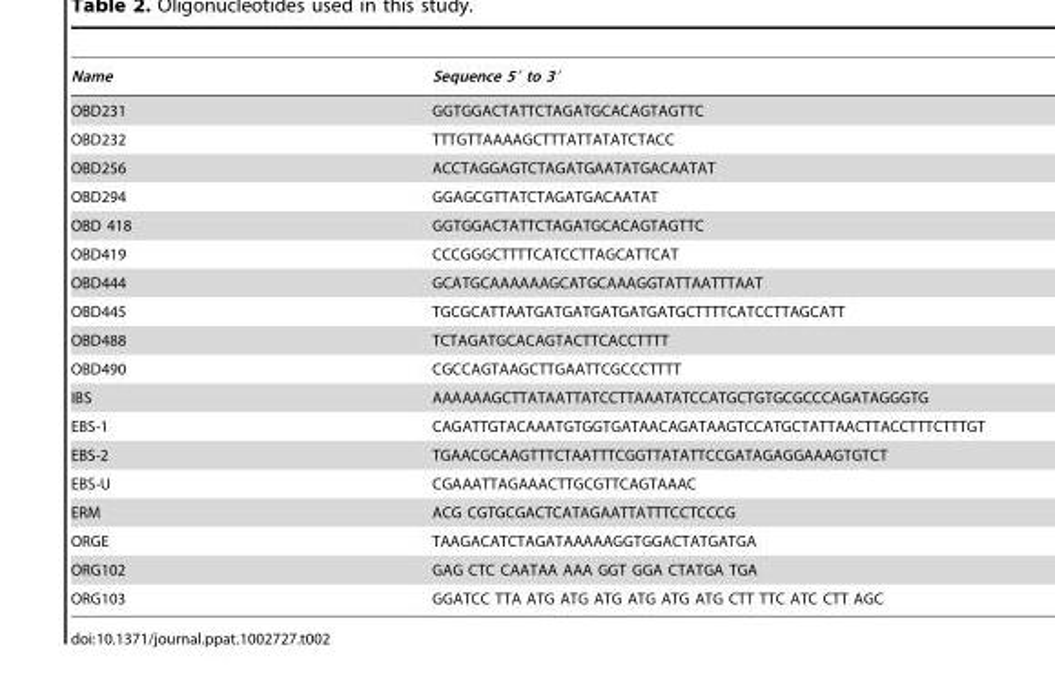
<table><thead><tr><td>Name</td><td>Sequence 5′ to 3′</td></tr></thead><tbody><tr><td>OBD231</td><td>GGTGGACTATTCTAGATGCACAGTAGTTC</td></tr><tr><td>OBD232</td><td>TTTGTTAAAAGCTTTATTATATCTACC</td></tr><tr><td>OBD256</td><td>ACCTAGGAGTCTAGATGAATATGACAATAT</td></tr><tr><td>OBD294</td><td>GGAGCGTTATCTAGATGACAATAT</td></tr><tr><td>OBD 418</td><td>GGTGGACTATTCTAGATGCACAGTAGTTC</td></tr><tr><td>OBD419</td><td>CCCGGGCTTTTCATCCTTAGCATTCAT</td></tr><tr><td>OBD444</td><td>GCATGCAAAAAAGCATGCAAAGGTATTAATTTAAT</td></tr><tr><td>OBD445</td><td>TGCGCATTAATGATGATGATGATGATGCTTTTCATCCTTAGCATT</td></tr><tr><td>OBD488</td><td>TCTAGATGCACAGTACTTCACCTTTT</td></tr><tr><td>OBD490</td><td>CGCCAGTAAGCTTGAATTCGCCCTTTT</td></tr><tr><td>IBS</td><td>AAAAAAGCTTATAATTATCCTTAAATATCCATGCTGTGCGCCCAGATAGGGTG</td></tr><tr><td>EBS-1</td><td>CAGATTGTACAAATGTGGTGATAACAGATAAGTCCATGCTATTAACTTACCTTTCTTTGT</td></tr><tr><td>EBS-2</td><td>TGAACGCAAGTTTCTAATTTCGGTTATATTCCGATAGAGGAAAGTGTCT</td></tr><tr><td>EBS-U</td><td>CGAAATTAGAAACTTGCGTTCAGTAAAC</td></tr><tr><td>ERM</td><td>ACG CGTGCGACTCATAGAATTATTTCCTCCCG</td></tr><tr><td>ORGE</td><td>TAAGACATCTAGATAAAAAGGTGGACTATGATGA</td></tr><tr><td>ORG102</td><td>GAG CTC CAATAA AAA GGT GGA CTATGA TGA</td></tr><tr><td>ORG103</td><td>GGATCC TTA ATG ATG ATG ATG ATG ATG CTT TTC ATC CTT AGC</td></tr></tbody></table>